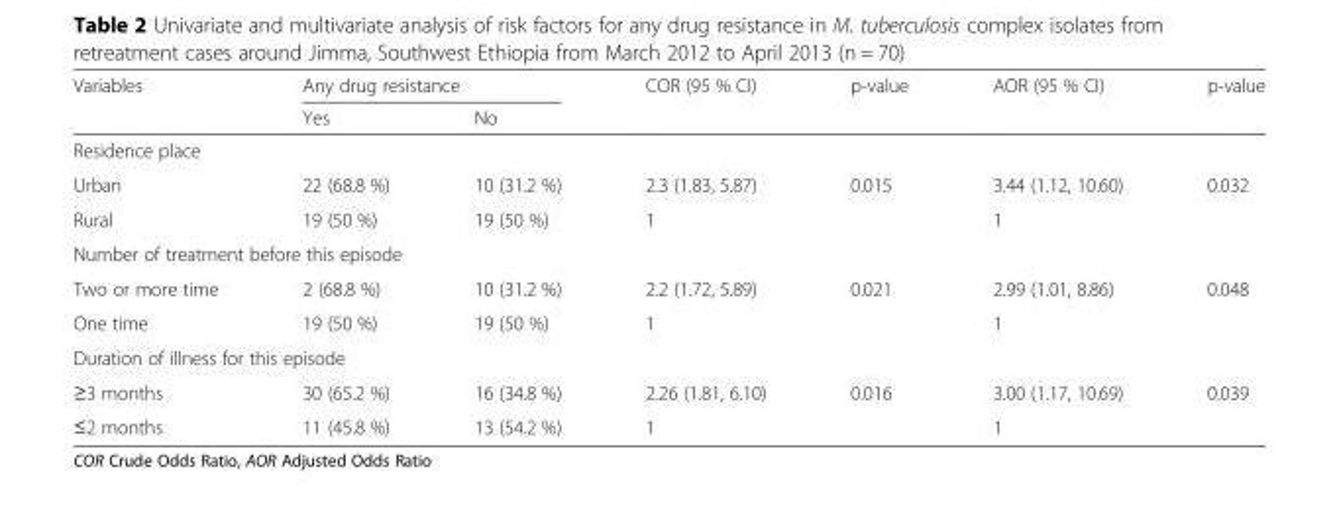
<table><thead><tr><td rowspan="2">Variables</td><td colspan="2">Any drug resistance</td><td rowspan="2">COR (95 % CI)</td><td rowspan="2">p-value</td><td rowspan="2">AOR (95 % CI)</td><td rowspan="2">p-value</td></tr><tr><td>Yes</td><td>No</td></tr></thead><tbody><tr><td colspan="7">Residence place</td></tr><tr><td>Urban</td><td>22 (68.8 %)</td><td>10 (31.2 %)</td><td>2.3 (1.83, 5.87)</td><td rowspan="2">0.015</td><td>3.44 (1.12, 10.60)</td><td>0.032</td></tr><tr><td>Rural</td><td>19 (50 %)</td><td>19 (50 %)</td><td>1</td><td>1</td><td></td></tr><tr><td colspan="7">Number of treatment before this episode</td></tr><tr><td>Two or more time</td><td>2 (68.8 %)</td><td>10 (31.2 %)</td><td>2.2 (1.72, 5.89)</td><td rowspan="2">0.021</td><td>2.99 (1.01, 8.86)</td><td>0.048</td></tr><tr><td>One time</td><td>19 (50 %)</td><td>19 (50 %)</td><td>1</td><td>1</td><td></td></tr><tr><td colspan="7">Duration of illness for this episode</td></tr><tr><td>≥3 months</td><td>30 (65.2 %)</td><td>16 (34.8 %)</td><td>2.26 (1.81, 6.10)</td><td rowspan="2">0.016</td><td>3.00 (1.17, 10.69)</td><td>0.039</td></tr><tr><td>≤2 months</td><td>11 (45.8 %)</td><td>13 (54.2 %)</td><td>1</td><td>1</td><td></td></tr></tbody></table>